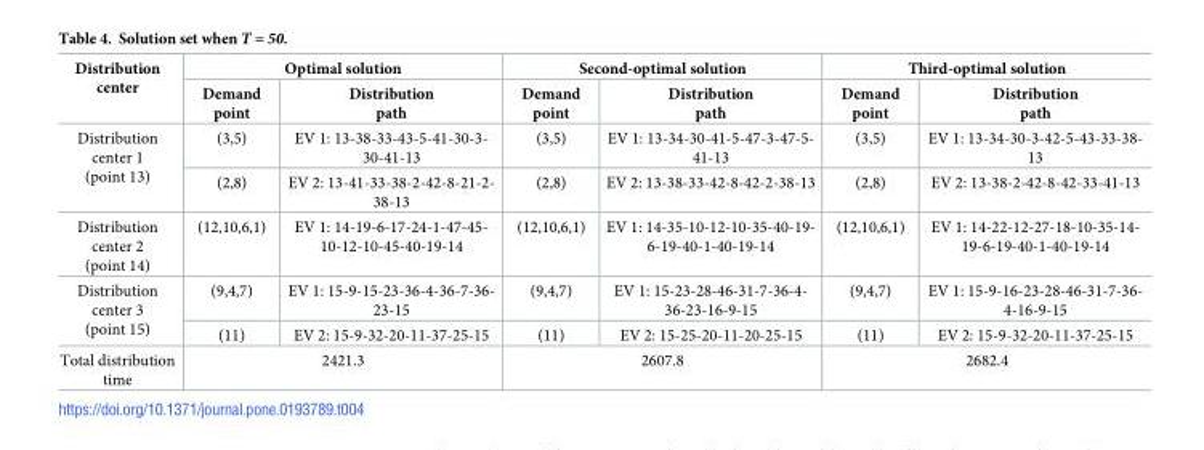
<table><thead><tr><td rowspan="2">Distribution center</td><td colspan="2">Optimal solution</td><td colspan="2">Second-optimal solution</td><td colspan="2">Third-optimal solution</td></tr><tr><td>Demand point</td><td>Distribution path</td><td>Demand point</td><td>Distribution path</td><td>Demand point</td><td>Distribution path</td></tr></thead><tbody><tr><td rowspan="2">Distribution center 1 (point 13)</td><td>(3,5)</td><td>EV 1: 13-38-33-43-5-41-30-3- 30-41-13</td><td>(3,5)</td><td>EV 1: 13-34-30-41-5-47-3-47-5- 41-13</td><td>(3,5)</td><td>EV 1: 13-34-30-3-42-5-43-33-38- 13</td></tr><tr><td>(2,8)</td><td>EV 2: 13-41-33-38-2-42-8-21-2- 38-13</td><td>(2,8)</td><td>EV 2: 13-38-33-42-8-42-2-38-13</td><td>(2,8)</td><td>EV 2: 13-38-2-42-8-42-33-41-13</td></tr><tr><td>Distribution center 2 (point 14)</td><td>(12,10,6,1)</td><td>EV 1: 14-19-6-17-24-1-47-45- 10-12-10-45-40-19-14</td><td>(12,10,6,1)</td><td>EV 1: 14-35-10-12-10-35-40-19- 6-19-40-1-40-19-14</td><td>(12,10,6,1)</td><td>EV 1: 14-22-12-27-18-10-35-14- 19-6-19-40-1-40-19-14</td></tr><tr><td rowspan="2">Distribution center 3 (point 15)</td><td>(9,4,7)</td><td>EV 1: 15-9-15-23-36-4-36-7-36- 23-15</td><td>(9,4,7)</td><td>EV 1: 15-23-28-46-31-7-36-4- 36-23-16-9-15</td><td>(9,4,7)</td><td>EV 1: 15-9-16-23-28-46-31-7-36- 4-16-9-15</td></tr><tr><td>(11)</td><td>EV 2: 15-9-32-20-11-37-25-15</td><td>(11)</td><td>EV 2: 15-25-20-11-20-25-15</td><td>(11)</td><td>EV 2: 15-9-32-20-11-37-25-15</td></tr><tr><td>Total distribution time</td><td colspan="2">2421.3</td><td colspan="2">2607.8</td><td colspan="2">2682.4</td></tr></tbody></table>